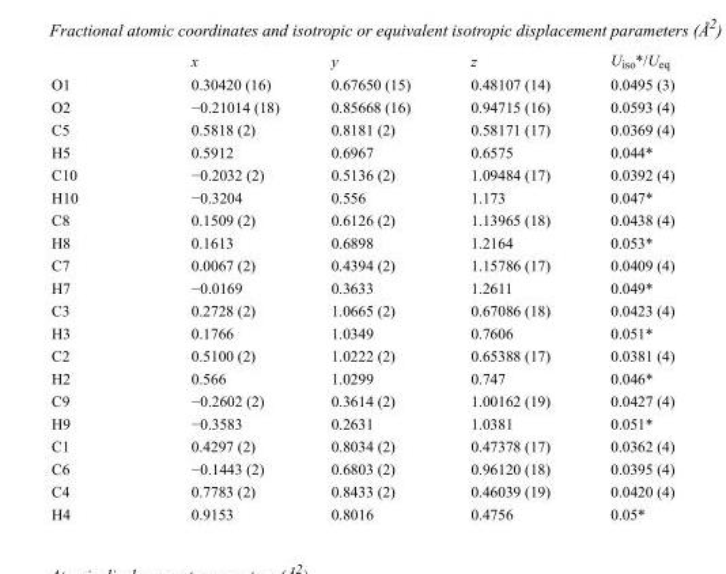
<table><thead><tr><td></td><td>x</td><td>y</td><td>z</td><td>U<sub>iso</sub>*/U<sub>eq</sub></td></tr></thead><tbody><tr><td>O1</td><td>0.30420 (16)</td><td>0.67650 (15)</td><td>0.48107 (14)</td><td>0.0495 (3)</td></tr><tr><td>O2</td><td>−0.21014 (18)</td><td>0.85668 (16)</td><td>0.94715 (16)</td><td>0.0593 (4)</td></tr><tr><td>C5</td><td>0.5818 (2)</td><td>0.8181 (2)</td><td>0.58171 (17)</td><td>0.0369 (4)</td></tr><tr><td>H5</td><td>0.5912</td><td>0.6967</td><td>0.6575</td><td>0.044*</td></tr><tr><td>C10</td><td>−0.2032 (2)</td><td>0.5136 (2)</td><td>1.09484 (17)</td><td>0.0392 (4)</td></tr><tr><td>H10</td><td>−0.3204</td><td>0.556</td><td>1.173</td><td>0.047*</td></tr><tr><td>C8</td><td>0.1509 (2)</td><td>0.6126 (2)</td><td>1.13965 (18)</td><td>0.0438 (4)</td></tr><tr><td>H8</td><td>0.1613</td><td>0.6898</td><td>1.2164</td><td>0.053*</td></tr><tr><td>C7</td><td>0.0067 (2)</td><td>0.4394 (2)</td><td>1.15786 (17)</td><td>0.0409 (4)</td></tr><tr><td>H7</td><td>−0.0169</td><td>0.3633</td><td>1.2611</td><td>0.049*</td></tr><tr><td>C3</td><td>0.2728 (2)</td><td>1.0665 (2)</td><td>0.67086 (18)</td><td>0.0423 (4)</td></tr><tr><td>H3</td><td>0.1766</td><td>1.0349</td><td>0.7606</td><td>0.051*</td></tr><tr><td>C2</td><td>0.5100 (2)</td><td>1.0222 (2)</td><td>0.65388 (17)</td><td>0.0381 (4)</td></tr><tr><td>H2</td><td>0.566</td><td>1.0299</td><td>0.747</td><td>0.046*</td></tr><tr><td>C9</td><td>−0.2602 (2)</td><td>0.3614 (2)</td><td>1.00162 (19)</td><td>0.0427 (4)</td></tr><tr><td>H9</td><td>−0.3583</td><td>0.2631</td><td>1.0381</td><td>0.051*</td></tr><tr><td>C1</td><td>0.4297 (2)</td><td>0.8034 (2)</td><td>0.47378 (17)</td><td>0.0362 (4)</td></tr><tr><td>C6</td><td>−0.1443 (2)</td><td>0.6803 (2)</td><td>0.96120 (18)</td><td>0.0395 (4)</td></tr><tr><td>C4</td><td>0.7783 (2)</td><td>0.8433 (2)</td><td>0.46039 (19)</td><td>0.0420 (4)</td></tr><tr><td>H4</td><td>0.9153</td><td>0.8016</td><td>0.4756</td><td>0.05*</td></tr></tbody></table>